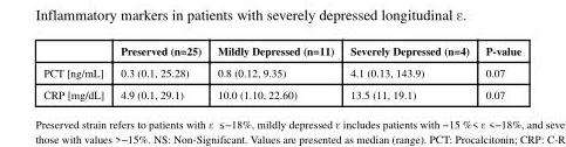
<table><thead><tr><td></td><td>Preserved (n=25)</td><td>Mildly Depressed (n=11)</td><td>Severely Depressed (n=4)</td><td>P-value</td></tr></thead><tbody><tr><td>PCT [ng/mL]</td><td>0.3 (0.1, 25.28)</td><td>0.8 (0.12, 9.35)</td><td>4.1 (0.13, 143.9)</td><td>0.07</td></tr><tr><td>CRP [mg/dL]</td><td>4.9 (0.1, 29.1)</td><td>10.0 (1.10, 22.60)</td><td>13.5 (11, 19.1)</td><td>0.07</td></tr></tbody></table>